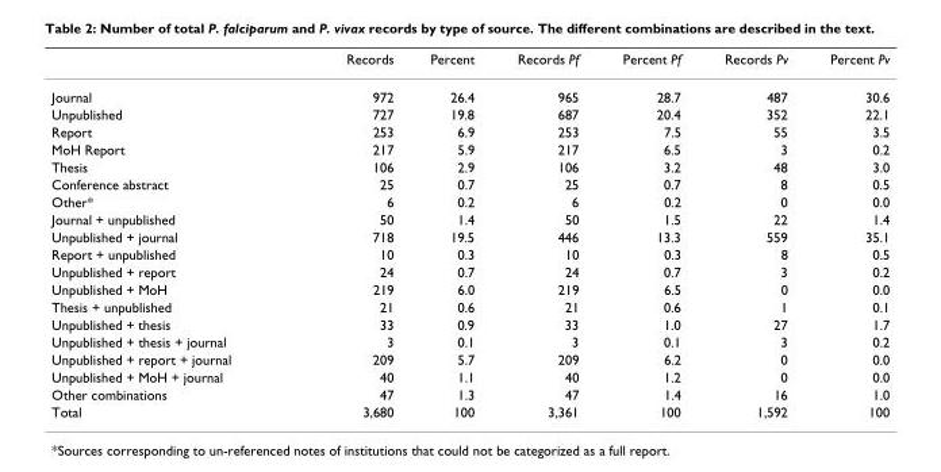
<table><thead><tr><td></td><td>Records</td><td>Percent</td><td>Records Pf</td><td>Percent Pf</td><td>Records Pv</td><td>Percent Pv</td></tr></thead><tbody><tr><td>Journal</td><td>972</td><td>26.4</td><td>965</td><td>28.7</td><td>487</td><td>30.6</td></tr><tr><td>Unpublished</td><td>727</td><td>19.8</td><td>687</td><td>20.4</td><td>352</td><td>22.1</td></tr><tr><td>Report</td><td>253</td><td>6.9</td><td>253</td><td>7.5</td><td>55</td><td>3.5</td></tr><tr><td>MoH Report</td><td>217</td><td>5.9</td><td>217</td><td>6.5</td><td>3</td><td>0.2</td></tr><tr><td>Thesis</td><td>106</td><td>2.9</td><td>106</td><td>3.2</td><td>48</td><td>3.0</td></tr><tr><td>Conference abstract</td><td>25</td><td>0.7</td><td>25</td><td>0.7</td><td>8</td><td>0.5</td></tr><tr><td>Other*</td><td>6</td><td>0.2</td><td>6</td><td>0.2</td><td>0</td><td>0.0</td></tr><tr><td>Journal + unpublished</td><td>50</td><td>1.4</td><td>50</td><td>1.5</td><td>22</td><td>1.4</td></tr><tr><td>Unpublished + journal</td><td>718</td><td>19.5</td><td>446</td><td>13.3</td><td>559</td><td>35.1</td></tr><tr><td>Report + unpublished</td><td>10</td><td>0.3</td><td>10</td><td>0.3</td><td>8</td><td>0.5</td></tr><tr><td>Unpublished + report</td><td>24</td><td>0.7</td><td>24</td><td>0.7</td><td>3</td><td>0.2</td></tr><tr><td>Unpublished + MoH</td><td>219</td><td>6.0</td><td>219</td><td>6.5</td><td>0</td><td>0.0</td></tr><tr><td>Thesis + unpublished</td><td>21</td><td>0.6</td><td>21</td><td>0.6</td><td>1</td><td>0.1</td></tr><tr><td>Unpublished + thesis</td><td>33</td><td>0.9</td><td>33</td><td>1.0</td><td>27</td><td>1.7</td></tr><tr><td>Unpublished + thesis + journal</td><td>3</td><td>0.1</td><td>3</td><td>0.1</td><td>3</td><td>0.2</td></tr><tr><td>Unpublished + report + journal</td><td>209</td><td>5.7</td><td>209</td><td>6.2</td><td>0</td><td>0.0</td></tr><tr><td>Unpublished + MoH + journal</td><td>40</td><td>1.1</td><td>40</td><td>1.2</td><td>0</td><td>0.0</td></tr><tr><td>Other combinations</td><td>47</td><td>1.3</td><td>47</td><td>1.4</td><td>16</td><td>1.0</td></tr><tr><td>Total</td><td>3,680</td><td>100</td><td>3,361</td><td>100</td><td>1,592</td><td>100</td></tr></tbody></table>